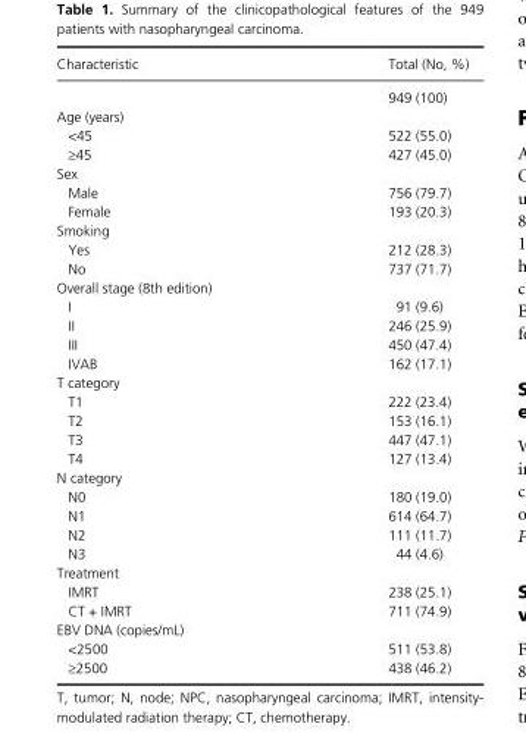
<table><thead><tr><td>Characteristic</td><td>Total (No, %)</td></tr></thead><tbody><tr><td></td><td>949 (100)</td></tr><tr><td colspan="2">Age (years)</td></tr><tr><td>&lt;45</td><td>522 (55.0)</td></tr><tr><td>≥45</td><td>427 (45.0)</td></tr><tr><td colspan="2">Sex</td></tr><tr><td>Male</td><td>756 (79.7)</td></tr><tr><td>Female</td><td>193 (20.3)</td></tr><tr><td colspan="2">Smoking</td></tr><tr><td>Yes</td><td>212 (28.3)</td></tr><tr><td>No</td><td>737 (71.7)</td></tr><tr><td colspan="2">Overall stage (8th edition)</td></tr><tr><td>I</td><td>91 (9.6)</td></tr><tr><td>II</td><td>246 (25.9)</td></tr><tr><td>III</td><td>450 (47.4)</td></tr><tr><td>IVAB</td><td>162 (17.1)</td></tr><tr><td colspan="2">T category</td></tr><tr><td>T1</td><td>222 (23.4)</td></tr><tr><td>T2</td><td>153 (16.1)</td></tr><tr><td>T3</td><td>447 (47.1)</td></tr><tr><td>T4</td><td>127 (13.4)</td></tr><tr><td colspan="2">N category</td></tr><tr><td>N0</td><td>180 (19.0)</td></tr><tr><td>N1</td><td>614 (64.7)</td></tr><tr><td>N2</td><td>111 (11.7)</td></tr><tr><td>N3</td><td>44 (4.6)</td></tr><tr><td colspan="2">Treatment</td></tr><tr><td>IMRT</td><td>238 (25.1)</td></tr><tr><td>CT + IMRT</td><td>711 (74.9)</td></tr><tr><td colspan="2">EBV DNA (copies/mL)</td></tr><tr><td>&lt;2500</td><td>511 (53.8)</td></tr><tr><td>≥2500</td><td>438 (46.2)</td></tr></tbody></table>